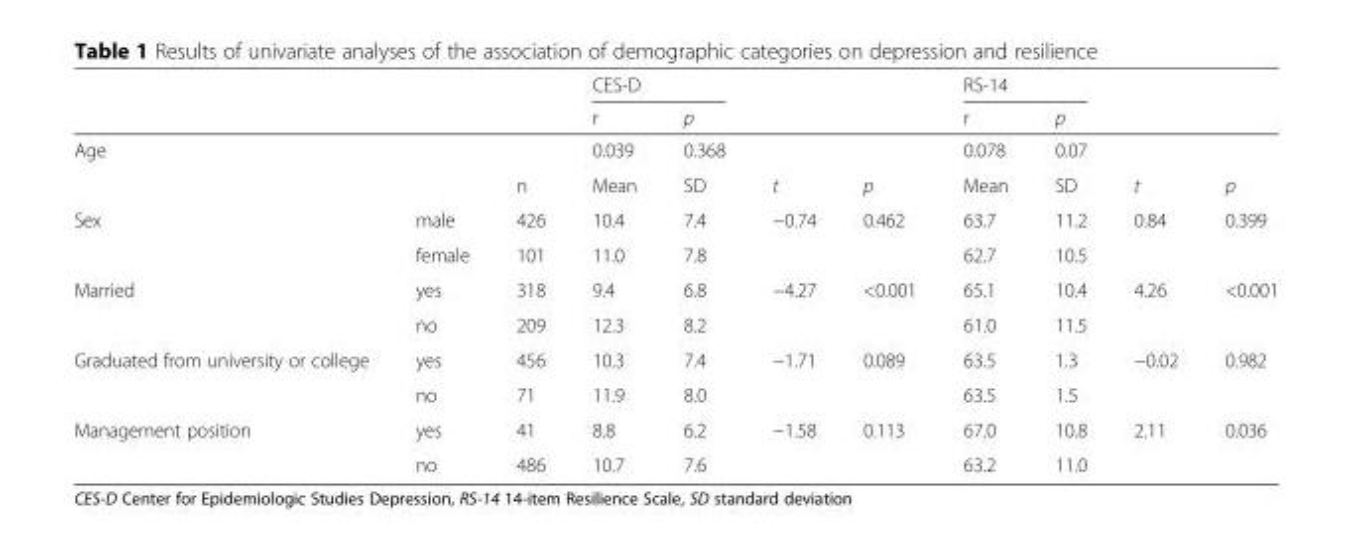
<table><thead><tr><td rowspan="2"></td><td rowspan="2"></td><td rowspan="2"></td><td colspan="2">CES-D</td><td rowspan="2"></td><td rowspan="2"></td><td colspan="2">RS-14</td><td rowspan="2"></td><td rowspan="2"></td></tr><tr><td>r</td><td>p</td><td>r</td><td>p</td></tr></thead><tbody><tr><td rowspan="2">Age</td><td></td><td></td><td>0.039</td><td>0.368</td><td></td><td></td><td>0.078</td><td>0.07</td><td></td><td></td></tr><tr><td></td><td>n</td><td>Mean</td><td>SD</td><td>t</td><td>p</td><td>Mean</td><td>SD</td><td>t</td><td>p</td></tr><tr><td rowspan="2">Sex</td><td>male</td><td>426</td><td>10.4</td><td>7.4</td><td>−0.74</td><td>0.462</td><td>63.7</td><td>11.2</td><td>0.84</td><td>0.399</td></tr><tr><td>female</td><td>101</td><td>11.0</td><td>7.8</td><td></td><td></td><td>62.7</td><td>10.5</td><td></td><td></td></tr><tr><td rowspan="2">Married</td><td>yes</td><td>318</td><td>9.4</td><td>6.8</td><td>−4.27</td><td>&lt;0.001</td><td>65.1</td><td>10.4</td><td>4.26</td><td>&lt;0.001</td></tr><tr><td>no</td><td>209</td><td>12.3</td><td>8.2</td><td></td><td></td><td>61.0</td><td>11.5</td><td></td><td></td></tr><tr><td rowspan="2">Graduated from university or college</td><td>yes</td><td>456</td><td>10.3</td><td>7.4</td><td>−1.71</td><td>0.089</td><td>63.5</td><td>1.3</td><td>−0.02</td><td>0.982</td></tr><tr><td>no</td><td>71</td><td>11.9</td><td>8.0</td><td></td><td></td><td>63.5</td><td>1.5</td><td></td><td></td></tr><tr><td rowspan="2">Management position</td><td>yes</td><td>41</td><td>8.8</td><td>6.2</td><td>−1.58</td><td>0.113</td><td>67.0</td><td>10.8</td><td>2.11</td><td>0.036</td></tr><tr><td>no</td><td>486</td><td>10.7</td><td>7.6</td><td></td><td></td><td>63.2</td><td>11.0</td><td></td><td></td></tr></tbody></table>